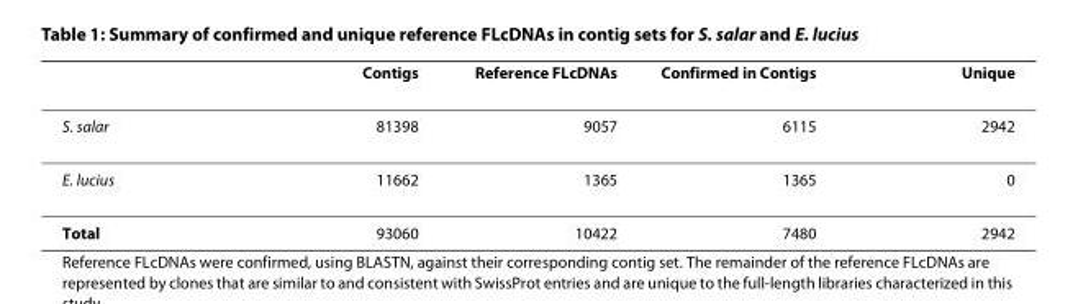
<table><thead><tr><td></td><td>Contigs</td><td>Reference FLcDNAs</td><td>Confirmed in Contigs</td><td>Unique</td></tr></thead><tbody><tr><td>S. salar</td><td>81398</td><td>9057</td><td>6115</td><td>2942</td></tr><tr><td>E. lucius</td><td>11662</td><td>1365</td><td>1365</td><td>0</td></tr><tr><td>Total</td><td>93060</td><td>10422</td><td>7480</td><td>2942</td></tr></tbody></table>